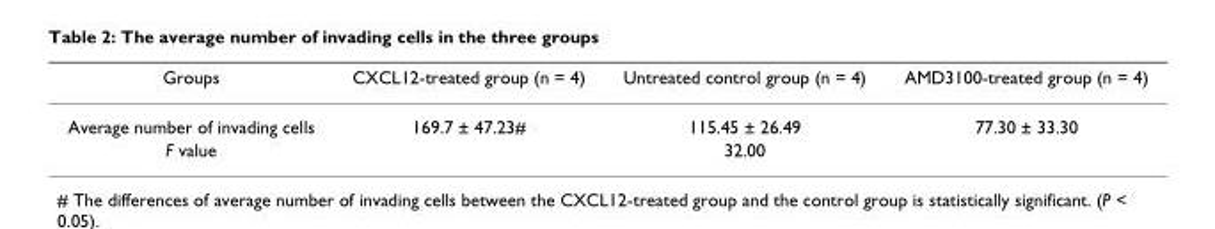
<table><thead><tr><td>Groups</td><td>CXCL12-treated group (n = 4)</td><td>Untreated control group (n = 4)</td><td>AMD3100-treated group (n = 4)</td></tr></thead><tbody><tr><td>Average number of invading cells</td><td>169.7 ± 47.23#</td><td>115.45 ± 26.49</td><td>77.30 ± 33.30</td></tr><tr><td>F value</td><td></td><td>32.00</td><td></td></tr></tbody></table>